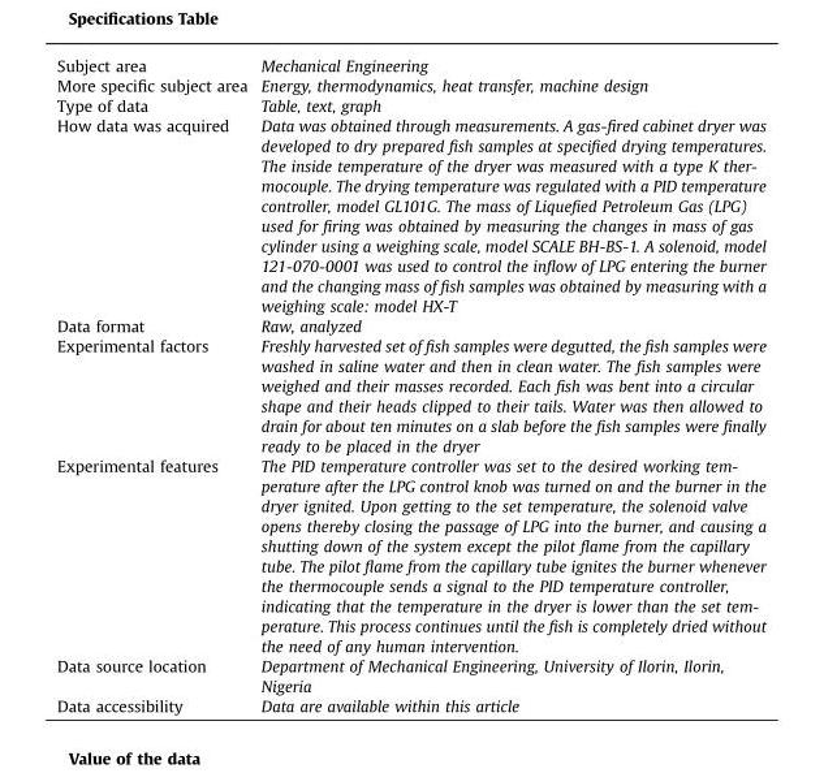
<table><thead><tr><td>Subject area</td><td>Mechanical Engineering</td></tr></thead><tbody><tr><td>More specific subject area</td><td>Energy, thermodynamics, heat transfer, machine design</td></tr><tr><td>Type of data</td><td>Table, text, graph</td></tr><tr><td>How data was acquired</td><td>Data was obtained through measurements. A gas-fired cabinet dryer was developed to dry prepared fish samples at specified drying temperatures. The inside temperature of the dryer was measured with a type K ther- mocouple. The drying temperature was regulated with a PID temperature controller, model GL101G. The mass of Liquefied Petroleum Gas (LPG) used for firing was obtained by measuring the changes in mass of gas cylinder using a weighing scale, model SCALE BH-BS-1. A solenoid, model 121-070-0001 was used to control the inflow of LPG entering the burner and the changing mass of fish samples was obtained by measuring with a weighing scale: model HX-T</td></tr><tr><td>Data format</td><td>Raw, analyzed</td></tr><tr><td>Experimental factors</td><td>Freshly harvested set of fish samples were degutted, the fish samples were washed in saline water and then in clean water. The fish samples were weighed and their masses recorded. Each fish was bent into a circular shape and their heads clipped to their tails. Water was then allowed to drain for about ten minutes on a slab before the fish samples were finally ready to be placed in the dryer</td></tr><tr><td>Experimental features</td><td>The PID temperature controller was set to the desired working tem- perature after the LPG control knob was turned on and the burner in the dryer ignited. Upon getting to the set temperature, the solenoid valve opens thereby closing the passage of LPG into the burner, and causing a shutting down of the system except the pilot flame from the capillary tube. The pilot flame from the capillary tube ignites the burner whenever the thermocouple sends a signal to the PID temperature controller, indicating that the temperature in the dryer is lower than the set tem- perature. This process continues until the fish is completely dried without the need of any human intervention.</td></tr><tr><td>Data source location</td><td>Department of Mechanical Engineering, University of Ilorin, Ilorin, Nigeria</td></tr><tr><td>Data accessibility</td><td>Data are available within this article</td></tr></tbody></table>